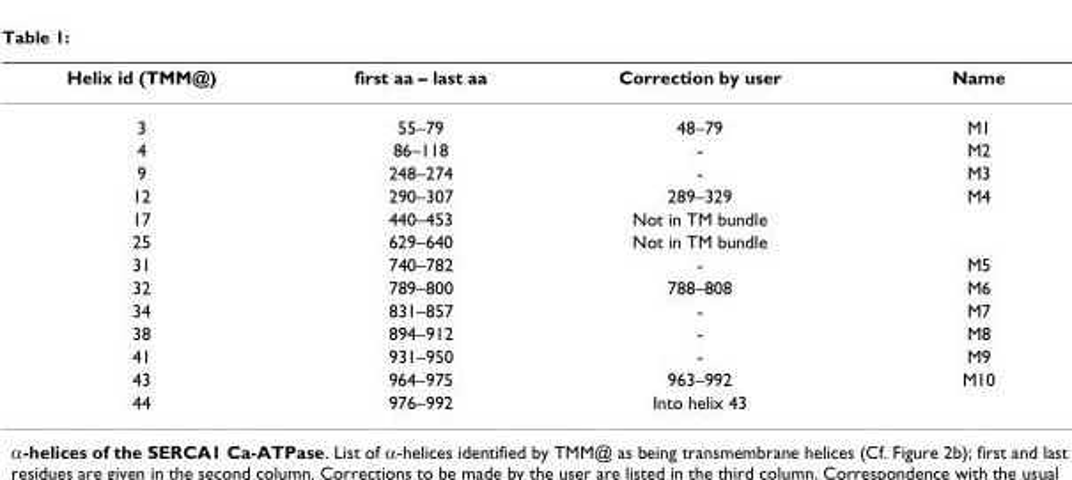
<table><thead><tr><td>Helix id (TMM@)</td><td>first aa – last aa</td><td>Correction by user</td><td>Name</td></tr></thead><tbody><tr><td>3</td><td>55–79</td><td>48–79</td><td>M1</td></tr><tr><td>4</td><td>86–118</td><td>-</td><td>M2</td></tr><tr><td>9</td><td>248–274</td><td>-</td><td>M3</td></tr><tr><td>12</td><td>290–307</td><td>289–329</td><td>M4</td></tr><tr><td>17</td><td>440–453</td><td>Not in TM bundle</td><td></td></tr><tr><td>25</td><td>629–640</td><td>Not in TM bundle</td><td></td></tr><tr><td>31</td><td>740–782</td><td>-</td><td>M5</td></tr><tr><td>32</td><td>789–800</td><td>788–808</td><td>M6</td></tr><tr><td>34</td><td>831–857</td><td>-</td><td>M7</td></tr><tr><td>38</td><td>894–912</td><td>-</td><td>M8</td></tr><tr><td>41</td><td>931–950</td><td>-</td><td>M9</td></tr><tr><td>43</td><td>964–975</td><td>963–992</td><td>M10</td></tr><tr><td>44</td><td>976–992</td><td>Into helix 43</td><td></td></tr></tbody></table>